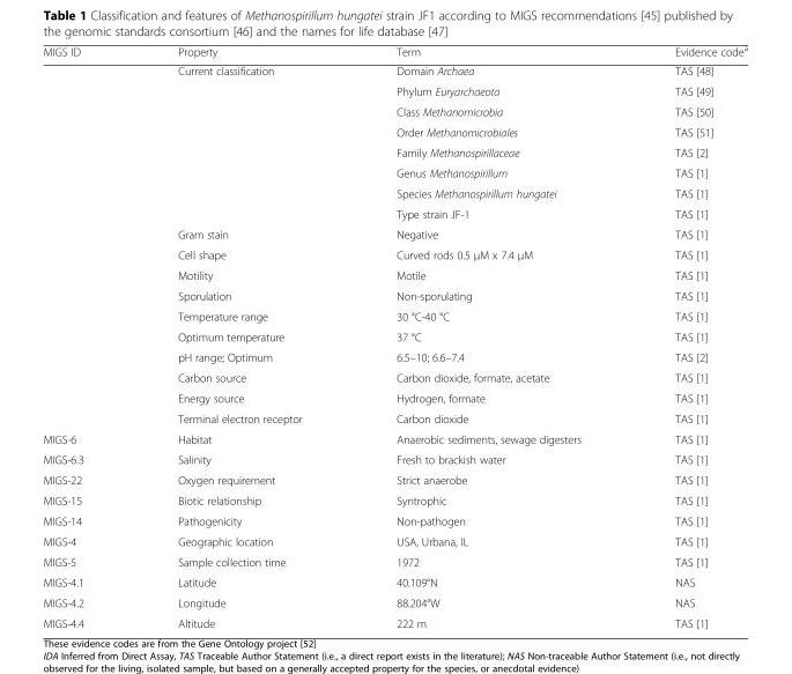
<table><thead><tr><td>MIGS ID</td><td>Property</td><td>Term</td><td>Evidence code<sup>a</sup></td></tr></thead><tbody><tr><td rowspan="8"></td><td rowspan="8">Current classification</td><td>Domain Archaea</td><td>TAS [48]</td></tr><tr><td>Phylum Euryarchaeota</td><td>TAS [49]</td></tr><tr><td>Class Methanomicrobia</td><td>TAS [50]</td></tr><tr><td>Order Methanomicrobiales</td><td>TAS [51]</td></tr><tr><td>Family Methanospirillaceae</td><td>TAS [2]</td></tr><tr><td>Genus Methanospirillum</td><td>TAS [1]</td></tr><tr><td>Species Methanospirillum hungatei</td><td>TAS [1]</td></tr><tr><td>Type strain JF-1</td><td>TAS [1]</td></tr><tr><td></td><td>Gram stain</td><td>Negative</td><td>TAS [1]</td></tr><tr><td></td><td>Cell shape</td><td>Curved rods 0.5 μM x 7.4 μM</td><td>TAS [1]</td></tr><tr><td></td><td>Motility</td><td>Motile</td><td>TAS [1]</td></tr><tr><td></td><td>Sporulation</td><td>Non-sporulating</td><td>TAS [1]</td></tr><tr><td></td><td>Temperature range</td><td>30 °C-40 °C</td><td>TAS [1]</td></tr><tr><td rowspan="2"></td><td>Optimum temperature</td><td>37 °C</td><td>TAS [1]</td></tr><tr><td>pH range; Optimum</td><td>6.5–10; 6.6–7.4</td><td>TAS [2]</td></tr><tr><td></td><td>Carbon source</td><td>Carbon dioxide, formate, acetate</td><td>TAS [1]</td></tr><tr><td></td><td>Energy source</td><td>Hydrogen, formate</td><td>TAS [1]</td></tr><tr><td></td><td>Terminal electron receptor</td><td>Carbon dioxide</td><td>TAS [1]</td></tr><tr><td>MIGS-6</td><td>Habitat</td><td>Anaerobic sediments, sewage digesters</td><td>TAS [1]</td></tr><tr><td>MIGS-6.3</td><td>Salinity</td><td>Fresh to brackish water</td><td>TAS [1]</td></tr><tr><td>MIGS-22</td><td>Oxygen requirement</td><td>Strict anaerobe</td><td>TAS [1]</td></tr><tr><td>MIGS-15</td><td>Biotic relationship</td><td>Syntrophic</td><td>TAS [1]</td></tr><tr><td>MIGS-14</td><td>Pathogenicity</td><td>Non-pathogen</td><td>TAS [1]</td></tr><tr><td>MIGS-4</td><td>Geographic location</td><td>USA, Urbana, IL</td><td>TAS [1]</td></tr><tr><td>MIGS-5</td><td>Sample collection time</td><td>1972</td><td>TAS [1]</td></tr><tr><td>MIGS-4.1</td><td>Latitude</td><td>40.109°N</td><td>NAS</td></tr><tr><td>MIGS-4.2</td><td>Longitude</td><td>88.204°W</td><td>NAS</td></tr><tr><td>MIGS-4.4</td><td>Altitude</td><td>222 m</td><td>TAS [1]</td></tr></tbody></table>